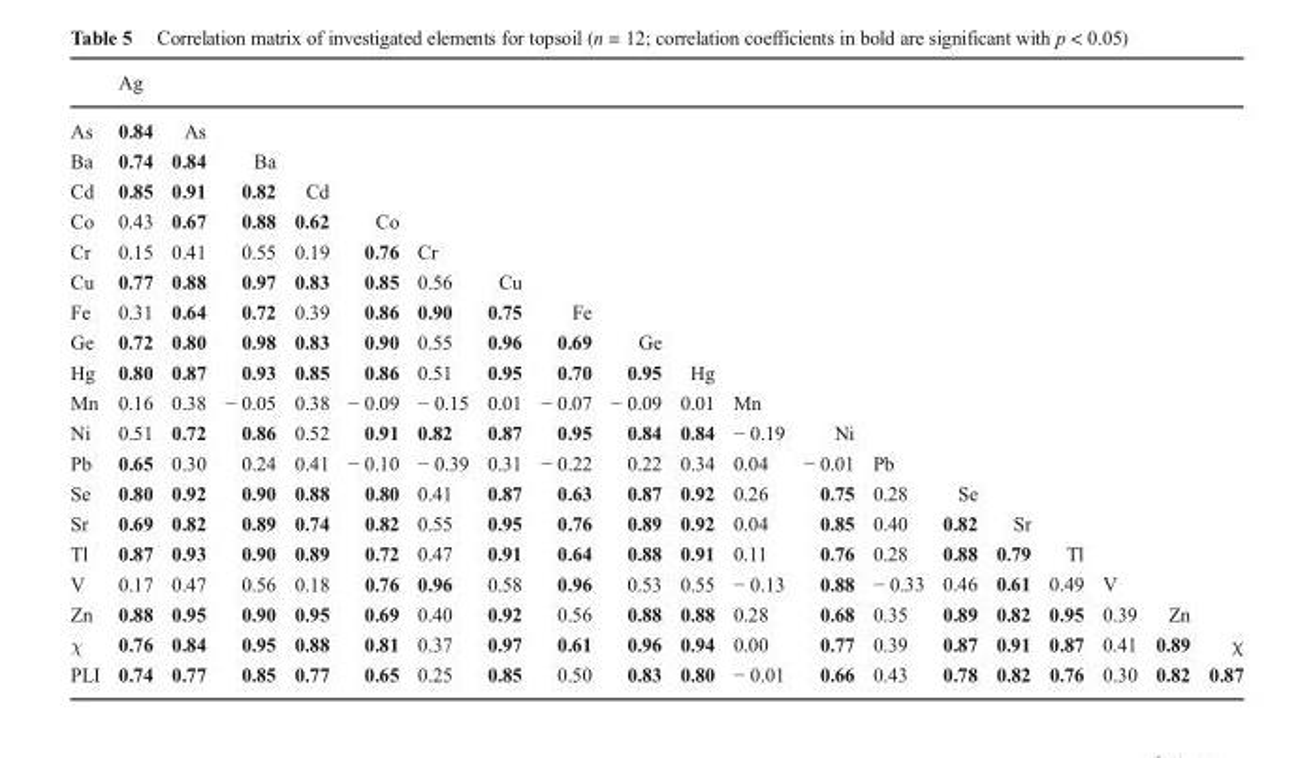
<table><thead><tr><td></td><td>Ag</td><td></td><td></td><td></td><td></td><td></td><td></td><td></td><td></td><td></td><td></td><td></td><td></td><td></td><td></td><td></td><td></td><td></td><td></td></tr></thead><tbody><tr><td>As</td><td>0.84</td><td>As</td><td></td><td></td><td></td><td></td><td></td><td></td><td></td><td></td><td></td><td></td><td></td><td></td><td></td><td></td><td></td><td></td><td></td></tr><tr><td>Ba</td><td>0.74</td><td>0.84</td><td>Ba</td><td></td><td></td><td></td><td></td><td></td><td></td><td></td><td></td><td></td><td></td><td></td><td></td><td></td><td></td><td></td><td></td></tr><tr><td>Cd</td><td>0.85</td><td>0.91</td><td>0.82</td><td>Cd</td><td></td><td></td><td></td><td></td><td></td><td></td><td></td><td></td><td></td><td></td><td></td><td></td><td></td><td></td><td></td></tr><tr><td>Co</td><td>0.43</td><td>0.67</td><td>0.88</td><td>0.62</td><td>Co</td><td></td><td></td><td></td><td></td><td></td><td></td><td></td><td></td><td></td><td></td><td></td><td></td><td></td><td></td></tr><tr><td>Cr</td><td>0.15</td><td>0.41</td><td>0.55</td><td>0.19</td><td>0.76</td><td>Cr</td><td></td><td></td><td></td><td></td><td></td><td></td><td></td><td></td><td></td><td></td><td></td><td></td><td></td></tr><tr><td>Cu</td><td>0.77</td><td>0.88</td><td>0.97</td><td>0.83</td><td>0.85</td><td>0.56</td><td>Cu</td><td></td><td></td><td></td><td></td><td></td><td></td><td></td><td></td><td></td><td></td><td></td><td></td></tr><tr><td>Fe</td><td>0.31</td><td>0.64</td><td>0.72</td><td>0.39</td><td>0.86</td><td>0.90</td><td>0.75</td><td>Fe</td><td></td><td></td><td></td><td></td><td></td><td></td><td></td><td></td><td></td><td></td><td></td></tr><tr><td>Ge</td><td>0.72</td><td>0.80</td><td>0.98</td><td>0.83</td><td>0.90</td><td>0.55</td><td>0.96</td><td>0.69</td><td>Ge</td><td></td><td></td><td></td><td></td><td></td><td></td><td></td><td></td><td></td><td></td></tr><tr><td>Hg</td><td>0.80</td><td>0.87</td><td>0.93</td><td>0.85</td><td>0.86</td><td>0.51</td><td>0.95</td><td>0.70</td><td>0.95</td><td>Hg</td><td></td><td></td><td></td><td></td><td></td><td></td><td></td><td></td><td></td></tr><tr><td>Mn</td><td>0.16</td><td>0.38</td><td>− 0.05</td><td>0.38</td><td>− 0.09</td><td>− 0.15</td><td>0.01</td><td>− 0.07</td><td>− 0.09</td><td>0.01</td><td>Mn</td><td></td><td></td><td></td><td></td><td></td><td></td><td></td><td></td></tr><tr><td>Ni</td><td>0.51</td><td>0.72</td><td>0.86</td><td>0.52</td><td>0.91</td><td>0.82</td><td>0.87</td><td>0.95</td><td>0.84</td><td>0.84</td><td>− 0.19</td><td>Ni</td><td></td><td></td><td></td><td></td><td></td><td></td><td></td></tr><tr><td>Pb</td><td>0.65</td><td>0.30</td><td>0.24</td><td>0.41</td><td>− 0.10</td><td>− 0.39</td><td>0.31</td><td>− 0.22</td><td>0.22</td><td>0.34</td><td>0.04</td><td>− 0.01</td><td>Pb</td><td></td><td></td><td></td><td></td><td></td><td></td></tr><tr><td>Se</td><td>0.80</td><td>0.92</td><td>0.90</td><td>0.88</td><td>0.80</td><td>0.41</td><td>0.87</td><td>0.63</td><td>0.87</td><td>0.92</td><td>0.26</td><td>0.75</td><td>0.28</td><td>Se</td><td></td><td></td><td></td><td></td><td></td></tr><tr><td>Sr</td><td>0.69</td><td>0.82</td><td>0.89</td><td>0.74</td><td>0.82</td><td>0.55</td><td>0.95</td><td>0.76</td><td>0.89</td><td>0.92</td><td>0.04</td><td>0.85</td><td>0.40</td><td>0.82</td><td>Sr</td><td></td><td></td><td></td><td></td></tr><tr><td>Tl</td><td>0.87</td><td>0.93</td><td>0.90</td><td>0.89</td><td>0.72</td><td>0.47</td><td>0.91</td><td>0.64</td><td>0.88</td><td>0.91</td><td>0.11</td><td>0.76</td><td>0.28</td><td>0.88</td><td>0.79</td><td>Tl</td><td></td><td></td><td></td></tr><tr><td>V</td><td>0.17</td><td>0.47</td><td>0.56</td><td>0.18</td><td>0.76</td><td>0.96</td><td>0.58</td><td>0.96</td><td>0.53</td><td>0.55</td><td>− 0.13</td><td>0.88</td><td>− 0.33</td><td>0.46</td><td>0.61</td><td>0.49</td><td>V</td><td></td><td></td></tr><tr><td>Zn</td><td>0.88</td><td>0.95</td><td>0.90</td><td>0.95</td><td>0.69</td><td>0.40</td><td>0.92</td><td>0.56</td><td>0.88</td><td>0.88</td><td>0.28</td><td>0.68</td><td>0.35</td><td>0.89</td><td>0.82</td><td>0.95</td><td>0.39</td><td>Zn</td><td></td></tr><tr><td>χ</td><td>0.76</td><td>0.84</td><td>0.95</td><td>0.88</td><td>0.81</td><td>0.37</td><td>0.97</td><td>0.61</td><td>0.96</td><td>0.94</td><td>0.00</td><td>0.77</td><td>0.39</td><td>0.87</td><td>0.91</td><td>0.87</td><td>0.41</td><td>0.89</td><td>χ</td></tr><tr><td>PLI</td><td>0.74</td><td>0.77</td><td>0.85</td><td>0.77</td><td>0.65</td><td>0.25</td><td>0.85</td><td>0.50</td><td>0.83</td><td>0.80</td><td>− 0.01</td><td>0.66</td><td>0.43</td><td>0.78</td><td>0.82</td><td>0.76</td><td>0.30</td><td>0.82</td><td>0.87</td></tr></tbody></table>